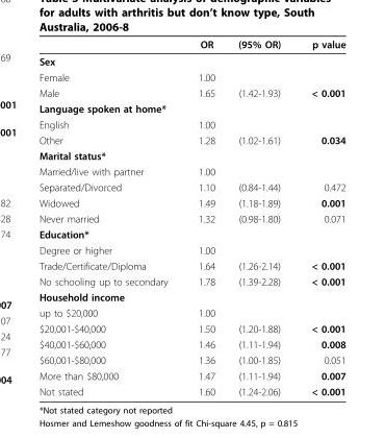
<table><thead><tr><td></td><td>OR</td><td>(95% OR)</td><td>p value</td></tr></thead><tbody><tr><td colspan="4">Sex</td></tr><tr><td>Female</td><td>1.00</td><td></td><td></td></tr><tr><td>Male</td><td>1.65</td><td>(1.42-1.93)</td><td>&lt; 0.001</td></tr><tr><td colspan="4">Language spoken at home*</td></tr><tr><td>English</td><td>1.00</td><td></td><td></td></tr><tr><td>Other</td><td>1.28</td><td>(1.02-1.61)</td><td>0.034</td></tr><tr><td colspan="4">Marital status*</td></tr><tr><td>Married/live with partner</td><td>1.00</td><td></td><td></td></tr><tr><td>Separated/Divorced</td><td>1.10</td><td>(0.84-1.44)</td><td>0.472</td></tr><tr><td>Widowed</td><td>1.49</td><td>(1.18-1.89)</td><td>0.001</td></tr><tr><td>Never married</td><td>1.32</td><td>(0.98-1.80)</td><td>0.071</td></tr><tr><td colspan="4">Education*</td></tr><tr><td>Degree or higher</td><td>1.00</td><td></td><td></td></tr><tr><td>Trade/Certificate/Diploma</td><td>1.64</td><td>(1.26-2.14)</td><td>&lt; 0.001</td></tr><tr><td>No schooling up to secondary</td><td>1.78</td><td>(1.39-2.28)</td><td>&lt; 0.001</td></tr><tr><td colspan="4">Household income</td></tr><tr><td>up to $20,000</td><td>1.00</td><td></td><td></td></tr><tr><td>$20,001-$40,000</td><td>1.50</td><td>(1.20-1.88)</td><td>&lt; 0.001</td></tr><tr><td>$40,001-$60,000</td><td>1.46</td><td>(1.11-1.94)</td><td>0.008</td></tr><tr><td>$60,001-$80,000</td><td>1.36</td><td>(1.00-1.85)</td><td>0.051</td></tr><tr><td>More than $80,000</td><td>1.47</td><td>(1.11-1.94)</td><td>0.007</td></tr><tr><td>Not stated</td><td>1.60</td><td>(1.24-2.06)</td><td>&lt; 0.001</td></tr></tbody></table>